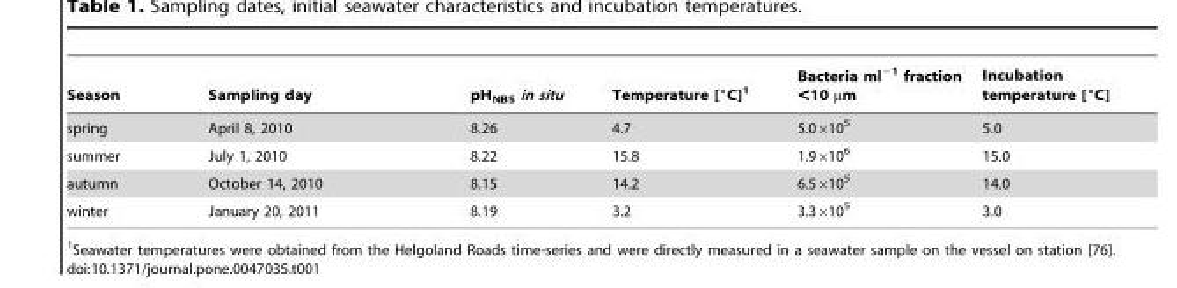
<table><thead><tr><td>Season</td><td>Sampling day</td><td>pH<sub>NBS</sub> in situ</td><td>Temperature [°C]<sup>1</sup></td><td>Bacteria ml<sup>−1</sup> fraction &lt;10 µm</td><td>Incubation temperature [°C]</td></tr></thead><tbody><tr><td>spring</td><td>April 8, 2010</td><td>8.26</td><td>4.7</td><td>5.0×10<sup>5</sup></td><td>5.0</td></tr><tr><td>summer</td><td>July 1, 2010</td><td>8.22</td><td>15.8</td><td>1.9×10<sup>6</sup></td><td>15.0</td></tr><tr><td>autumn</td><td>October 14, 2010</td><td>8.15</td><td>14.2</td><td>6.5×10<sup>5</sup></td><td>14.0</td></tr><tr><td>winter</td><td>January 20, 2011</td><td>8.19</td><td>3.2</td><td>3.3×10<sup>5</sup></td><td>3.0</td></tr></tbody></table>